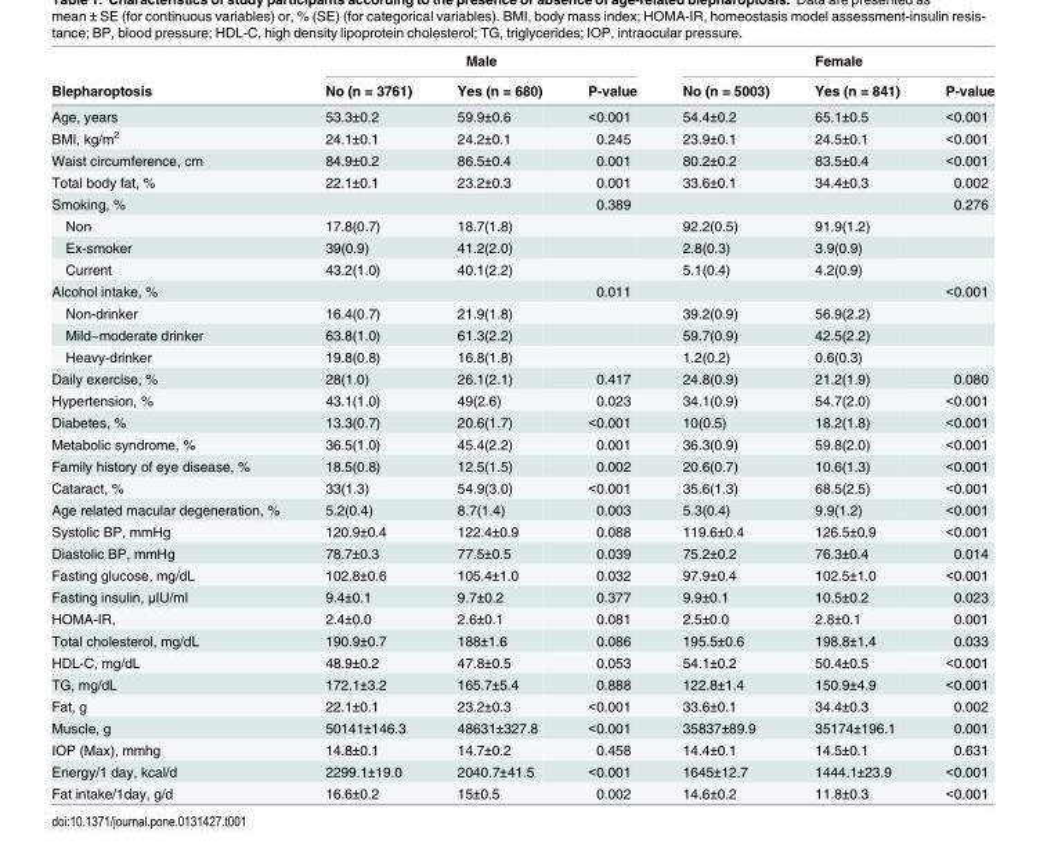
<table><thead><tr><td rowspan="2">Blepharoptosis</td><td colspan="3">Male</td><td colspan="3">Female</td></tr><tr><td>No (n = 3761)</td><td>Yes (n = 680)</td><td>P-value</td><td>No (n = 5003)</td><td>Yes (n = 841)</td><td>P-value</td></tr></thead><tbody><tr><td>Age, years</td><td>53.3±0.2</td><td>59.9±0.6</td><td>&lt;0.001</td><td>54.4±0.2</td><td>65.1±0.5</td><td>&lt;0.001</td></tr><tr><td>BMI, kg/m<sup>2</sup></td><td>24.1±0.1</td><td>24.2±0.1</td><td>0.245</td><td>23.9±0.1</td><td>24.5±0.1</td><td>&lt;0.001</td></tr><tr><td>Waist circumference, cm</td><td>84.9±0.2</td><td>86.5±0.4</td><td>0.001</td><td>80.2±0.2</td><td>83.5±0.4</td><td>&lt;0.001</td></tr><tr><td>Total body fat, %</td><td>22.1±0.1</td><td>23.2±0.3</td><td>0.001</td><td>33.6±0.1</td><td>34.4±0.3</td><td>0.002</td></tr><tr><td>Smoking, %</td><td></td><td></td><td>0.389</td><td></td><td></td><td>0.276</td></tr><tr><td>Non</td><td>17.8(0.7)</td><td>18.7(1.8)</td><td></td><td>92.2(0.5)</td><td>91.9(1.2)</td><td></td></tr><tr><td>Ex-smoker</td><td>39(0.9)</td><td>41.2(2.0)</td><td></td><td>2.8(0.3)</td><td>3.9(0.9)</td><td></td></tr><tr><td>Current</td><td>43.2(1.0)</td><td>40.1(2.2)</td><td></td><td>5.1(0.4)</td><td>4.2(0.9)</td><td></td></tr><tr><td>Alcohol intake, %</td><td></td><td></td><td>0.011</td><td></td><td></td><td>&lt;0.001</td></tr><tr><td>Non-drinker</td><td>16.4(0.7)</td><td>21.9(1.8)</td><td></td><td>39.2(0.9)</td><td>56.9(2.2)</td><td></td></tr><tr><td>Mild~moderate drinker</td><td>63.8(1.0)</td><td>61.3(2.2)</td><td></td><td>59.7(0.9)</td><td>42.5(2.2)</td><td></td></tr><tr><td>Heavy-drinker</td><td>19.8(0.8)</td><td>16.8(1.8)</td><td></td><td>1.2(0.2)</td><td>0.6(0.3)</td><td></td></tr><tr><td>Daily exercise, %</td><td>28(1.0)</td><td>26.1(2.1)</td><td>0.417</td><td>24.8(0.9)</td><td>21.2(1.9)</td><td>0.080</td></tr><tr><td>Hypertension, %</td><td>43.1(1.0)</td><td>49(2.6)</td><td>0.023</td><td>34.1(0.9)</td><td>54.7(2.0)</td><td>&lt;0.001</td></tr><tr><td>Diabetes, %</td><td>13.3(0.7)</td><td>20.6(1.7)</td><td>&lt;0.001</td><td>10(0.5)</td><td>18.2(1.8)</td><td>&lt;0.001</td></tr><tr><td>Metabolic syndrome, %</td><td>36.5(1.0)</td><td>45.4(2.2)</td><td>0.001</td><td>36.3(0.9)</td><td>59.8(2.0)</td><td>&lt;0.001</td></tr><tr><td>Family history of eye disease, %</td><td>18.5(0.8)</td><td>12.5(1.5)</td><td>0.002</td><td>20.6(0.7)</td><td>10.6(1.3)</td><td>&lt;0.001</td></tr><tr><td>Cataract, %</td><td>33(1.3)</td><td>54.9(3.0)</td><td>&lt;0.001</td><td>35.6(1.3)</td><td>68.5(2.5)</td><td>&lt;0.001</td></tr><tr><td>Age related macular degeneration, %</td><td>5.2(0.4)</td><td>8.7(1.4)</td><td>0.003</td><td>5.3(0.4)</td><td>9.9(1.2)</td><td>&lt;0.001</td></tr><tr><td>Systolic BP, mmHg</td><td>120.9±0.4</td><td>122.4±0.9</td><td>0.088</td><td>119.6±0.4</td><td>126.5±0.9</td><td>&lt;0.001</td></tr><tr><td>Diastolic BP, mmHg</td><td>78.7±0.3</td><td>77.5±0.5</td><td>0.039</td><td>75.2±0.2</td><td>76.3±0.4</td><td>0.014</td></tr><tr><td>Fasting glucose, mg/dL</td><td>102.8±0.6</td><td>105.4±1.0</td><td>0.032</td><td>97.9±0.4</td><td>102.5±1.0</td><td>&lt;0.001</td></tr><tr><td>Fasting insulin, μIU/ml</td><td>9.4±0.1</td><td>9.7±0.2</td><td>0.377</td><td>9.9±0.1</td><td>10.5±0.2</td><td>0.023</td></tr><tr><td>HOMA-IR,</td><td>2.4±0.0</td><td>2.6±0.1</td><td>0.081</td><td>2.5±0.0</td><td>2.8±0.1</td><td>0.001</td></tr><tr><td>Total cholesterol, mg/dL</td><td>190.9±0.7</td><td>188±1.6</td><td>0.086</td><td>195.5±0.6</td><td>198.8±1.4</td><td>0.033</td></tr><tr><td>HDL-C, mg/dL</td><td>48.9±0.2</td><td>47.8±0.5</td><td>0.053</td><td>54.1±0.2</td><td>50.4±0.5</td><td>&lt;0.001</td></tr><tr><td>TG, mg/dL</td><td>172.1±3.2</td><td>165.7±5.4</td><td>0.888</td><td>122.8±1.4</td><td>150.9±4.9</td><td>&lt;0.001</td></tr><tr><td>Fat, g</td><td>22.1±0.1</td><td>23.2±0.3</td><td>&lt;0.001</td><td>33.6±0.1</td><td>34.4±0.3</td><td>0.002</td></tr><tr><td>Muscle, g</td><td>50141±146.3</td><td>48631±327.8</td><td>&lt;0.001</td><td>35837±89.9</td><td>35174±196.1</td><td>0.001</td></tr><tr><td>IOP (Max), mmhg</td><td>14.8±0.1</td><td>14.7±0.2</td><td>0.458</td><td>14.4±0.1</td><td>14.5±0.1</td><td>0.631</td></tr><tr><td>Energy/1 day, kcal/d</td><td>2299.1±19.0</td><td>2040.7±41.5</td><td>&lt;0.001</td><td>1645±12.7</td><td>1444.1±23.9</td><td>&lt;0.001</td></tr><tr><td>Fat intake/1day, g/d</td><td>16.6±0.2</td><td>15±0.5</td><td>0.002</td><td>14.6±0.2</td><td>11.8±0.3</td><td>&lt;0.001</td></tr></tbody></table>